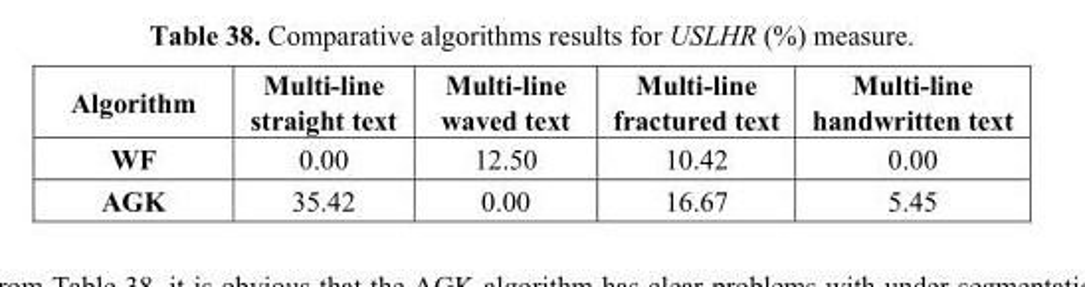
<table><thead><tr><td>Algorithm</td><td>Multi-line straight text</td><td>Multi-line waved text</td><td>Multi-line fractured text</td><td>Multi-line handwritten text</td></tr></thead><tbody><tr><td>WF</td><td>0.00</td><td>12.50</td><td>10.42</td><td>0.00</td></tr><tr><td>AGK</td><td>35.42</td><td>0.00</td><td>16.67</td><td>5.45</td></tr></tbody></table>